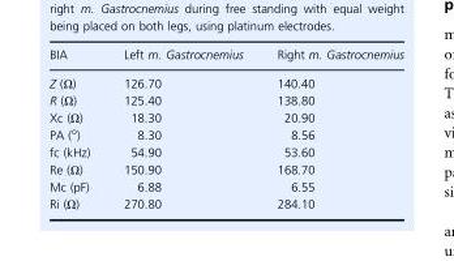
<table><thead><tr><td>BIA</td><td>Left m. Gastrocnemius</td><td>Right m. Gastrocnemius</td></tr></thead><tbody><tr><td>Z (Ω)</td><td>126.70</td><td>140.40</td></tr><tr><td>R (Ω)</td><td>125.40</td><td>138.80</td></tr><tr><td>Xc (Ω)</td><td>18.30</td><td>20.90</td></tr><tr><td>PA (<sup>o</sup>)</td><td>8.30</td><td>8.56</td></tr><tr><td>fc (kHz)</td><td>54.90</td><td>53.60</td></tr><tr><td>Re (Ω)</td><td>150.90</td><td>168.70</td></tr><tr><td>Mc (pF)</td><td>6.88</td><td>6.55</td></tr><tr><td>Ri (Ω)</td><td>270.80</td><td>284.10</td></tr></tbody></table>